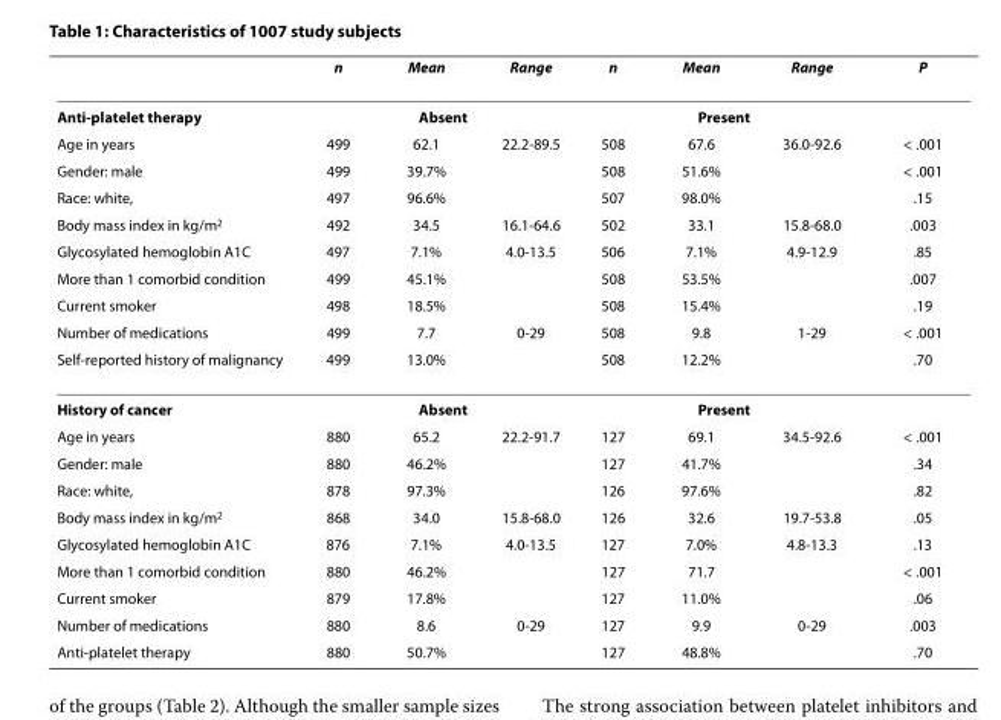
<table><thead><tr><td></td><td>n</td><td>Mean</td><td>Range</td><td>n</td><td>Mean</td><td>Range</td><td>P</td></tr></thead><tbody><tr><td>Anti-platelet therapy</td><td colspan="3">Absent</td><td colspan="3">Present</td><td></td></tr><tr><td>Age in years</td><td>499</td><td>62.1</td><td>22.2-89.5</td><td>508</td><td>67.6</td><td>36.0-92.6</td><td>&lt; .001</td></tr><tr><td>Gender: male</td><td>499</td><td>39.7%</td><td></td><td>508</td><td>51.6%</td><td></td><td>&lt; .001</td></tr><tr><td>Race: white,</td><td>497</td><td>96.6%</td><td></td><td>507</td><td>98.0%</td><td></td><td>.15</td></tr><tr><td>Body mass index in kg/m<sup>2</sup></td><td>492</td><td>34.5</td><td>16.1-64.6</td><td>502</td><td>33.1</td><td>15.8-68.0</td><td>.003</td></tr><tr><td>Glycosylated hemoglobin A1C</td><td>497</td><td>7.1%</td><td>4.0-13.5</td><td>506</td><td>7.1%</td><td>4.9-12.9</td><td>.85</td></tr><tr><td>More than 1 comorbid condition</td><td>499</td><td>45.1%</td><td></td><td>508</td><td>53.5%</td><td></td><td>.007</td></tr><tr><td>Current smoker</td><td>498</td><td>18.5%</td><td></td><td>508</td><td>15.4%</td><td></td><td>.19</td></tr><tr><td>Number of medications</td><td>499</td><td>7.7</td><td>0-29</td><td>508</td><td>9.8</td><td>1-29</td><td>&lt; .001</td></tr><tr><td>Self-reported history of malignancy</td><td>499</td><td>13.0%</td><td></td><td>508</td><td>12.2%</td><td></td><td>.70</td></tr><tr><td>History of cancer</td><td colspan="3">Absent</td><td colspan="3">Present</td><td></td></tr><tr><td>Age in years</td><td>880</td><td>65.2</td><td>22.2-91.7</td><td>127</td><td>69.1</td><td>34.5-92.6</td><td>&lt; .001</td></tr><tr><td>Gender: male</td><td>880</td><td>46.2%</td><td></td><td>127</td><td>41.7%</td><td></td><td>.34</td></tr><tr><td>Race: white,</td><td>878</td><td>97.3%</td><td></td><td>126</td><td>97.6%</td><td></td><td>.82</td></tr><tr><td>Body mass index in kg/m<sup>2</sup></td><td>868</td><td>34.0</td><td>15.8-68.0</td><td>126</td><td>32.6</td><td>19.7-53.8</td><td>.05</td></tr><tr><td>Glycosylated hemoglobin A1C</td><td>876</td><td>7.1%</td><td>4.0-13.5</td><td>127</td><td>7.0%</td><td>4.8-13.3</td><td>.13</td></tr><tr><td>More than 1 comorbid condition</td><td>880</td><td>46.2%</td><td></td><td>127</td><td>71.7</td><td></td><td>&lt; .001</td></tr><tr><td>Current smoker</td><td>879</td><td>17.8%</td><td></td><td>127</td><td>11.0%</td><td></td><td>.06</td></tr><tr><td>Number of medications</td><td>880</td><td>8.6</td><td>0-29</td><td>127</td><td>9.9</td><td>0-29</td><td>.003</td></tr><tr><td>Anti-platelet therapy</td><td>880</td><td>50.7%</td><td></td><td>127</td><td>48.8%</td><td></td><td>.70</td></tr></tbody></table>